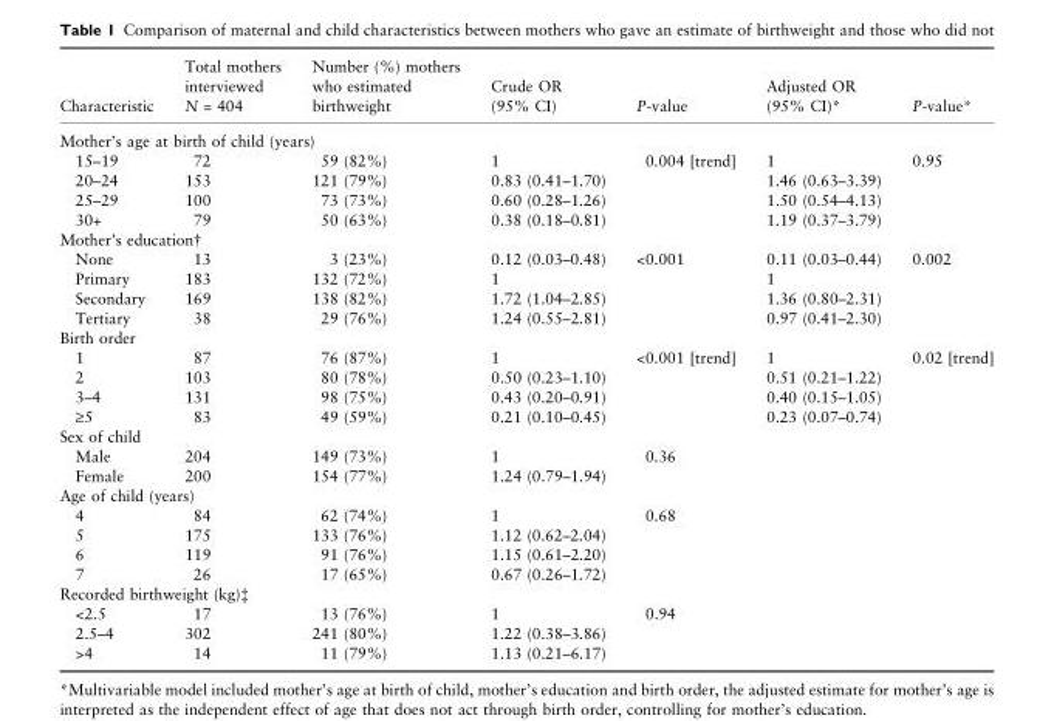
<table><thead><tr><td>Characteristic</td><td>Total mothers interviewed N = 404</td><td>Number (%) mothers who estimated birthweight</td><td>Crude OR (95% CI)</td><td>P-value</td><td>Adjusted OR (95% CI)*</td><td>P-value*</td></tr></thead><tbody><tr><td colspan="7">Mother’s age at birth of child (years)</td></tr><tr><td>15–19</td><td>72</td><td>59 (82%)</td><td>1</td><td rowspan="4">0.004 [trend]</td><td>1</td><td rowspan="4">0.95</td></tr><tr><td>20–24</td><td>153</td><td>121 (79%)</td><td>0.83 (0.41–1.70)</td><td>1.46 (0.63–3.39)</td></tr><tr><td>25–29</td><td>100</td><td>73 (73%)</td><td>0.60 (0.28–1.26)</td><td>1.50 (0.54–4.13)</td></tr><tr><td>30+</td><td>79</td><td>50 (63%)</td><td>0.38 (0.18–0.81)</td><td>1.19 (0.37–3.79)</td></tr><tr><td colspan="7">Mother’s education†</td></tr><tr><td>None</td><td>13</td><td>3 (23%)</td><td>0.12 (0.03–0.48)</td><td rowspan="4">&lt;0.001</td><td>0.11 (0.03–0.44)</td><td rowspan="4">0.002</td></tr><tr><td>Primary</td><td>183</td><td>132 (72%)</td><td>1</td><td>1</td></tr><tr><td>Secondary</td><td>169</td><td>138 (82%)</td><td>1.72 (1.04–2.85)</td><td>1.36 (0.80–2.31)</td></tr><tr><td>Tertiary</td><td>38</td><td>29 (76%)</td><td>1.24 (0.55–2.81)</td><td>0.97 (0.41–2.30)</td></tr><tr><td colspan="7">Birth order</td></tr><tr><td>1</td><td>87</td><td>76 (87%)</td><td>1</td><td rowspan="4">&lt;0.001 [trend]</td><td>1</td><td rowspan="4">0.02 [trend]</td></tr><tr><td>2</td><td>103</td><td>80 (78%)</td><td>0.50 (0.23–1.10)</td><td>0.51 (0.21–1.22)</td></tr><tr><td>3–4</td><td>131</td><td>98 (75%)</td><td>0.43 (0.20–0.91)</td><td>0.40 (0.15–1.05)</td></tr><tr><td>‡5</td><td>83</td><td>49 (59%)</td><td>0.21 (0.10–0.45)</td><td>0.23 (0.07–0.74)</td></tr><tr><td colspan="7">Sex of child</td></tr><tr><td>Male</td><td>204</td><td>149 (73%)</td><td>1</td><td rowspan="2">0.36</td><td rowspan="2"></td><td rowspan="2"></td></tr><tr><td>Female</td><td>200</td><td>154 (77%)</td><td>1.24 (0.79–1.94)</td></tr><tr><td colspan="7">Age of child (years)</td></tr><tr><td>4</td><td>84</td><td>62 (74%)</td><td>1</td><td rowspan="4">0.68</td><td rowspan="4"></td><td rowspan="4"></td></tr><tr><td>5</td><td>175</td><td>133 (76%)</td><td>1.12 (0.62–2.04)</td></tr><tr><td>6</td><td>119</td><td>91 (76%)</td><td>1.15 (0.61–2.20)</td></tr><tr><td>7</td><td>26</td><td>17 (65%)</td><td>0.67 (0.26–1.72)</td></tr><tr><td colspan="7">Recorded birthweight (kg)‡</td></tr><tr><td>&lt;2.5</td><td>17</td><td>13 (76%)</td><td>1</td><td rowspan="3">0.94</td><td rowspan="3"></td><td rowspan="3"></td></tr><tr><td>2.5–4</td><td>302</td><td>241 (80%)</td><td>1.22 (0.38–3.86)</td></tr><tr><td>&gt;4</td><td>14</td><td>11 (79%)</td><td>1.13 (0.21–6.17)</td></tr></tbody></table>